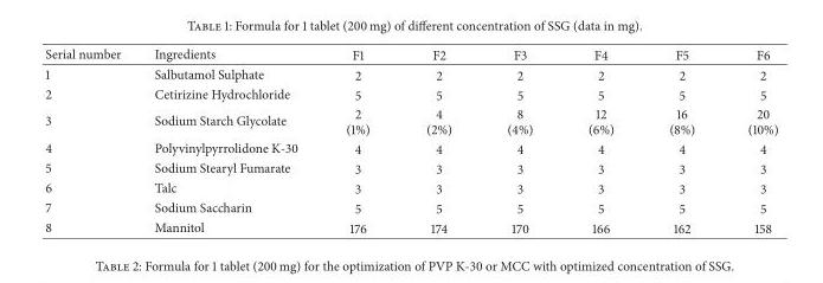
<table><thead><tr><td>Serial number</td><td>Ingredients</td><td>F1</td><td>F2</td><td>F3</td><td>F4</td><td>F5</td><td>F6</td></tr></thead><tbody><tr><td>1</td><td>Salbutamol Sulphate</td><td>2</td><td>2</td><td>2</td><td>2</td><td>2</td><td>2</td></tr><tr><td>2</td><td>Cetirizine Hydrochloride</td><td>5</td><td>5</td><td>5</td><td>5</td><td>5</td><td>5</td></tr><tr><td>3</td><td>Sodium Starch Glycolate</td><td>2 (1%)</td><td>4 (2%)</td><td>8 (4%)</td><td>12 (6%)</td><td>16 (8%)</td><td>20 (10%)</td></tr><tr><td>4</td><td>Polyvinylpyrrolidone K-30</td><td>4</td><td>4</td><td>4</td><td>4</td><td>4</td><td>4</td></tr><tr><td>5</td><td>Sodium Stearyl Fumarate</td><td>3</td><td>3</td><td>3</td><td>3</td><td>3</td><td>3</td></tr><tr><td>6</td><td>Talc</td><td>3</td><td>3</td><td>3</td><td>3</td><td>3</td><td>3</td></tr><tr><td>7</td><td>Sodium Saccharin</td><td>5</td><td>5</td><td>5</td><td>5</td><td>5</td><td>5</td></tr><tr><td>8</td><td>Mannitol</td><td>176</td><td>174</td><td>170</td><td>166</td><td>162</td><td>158</td></tr></tbody></table>